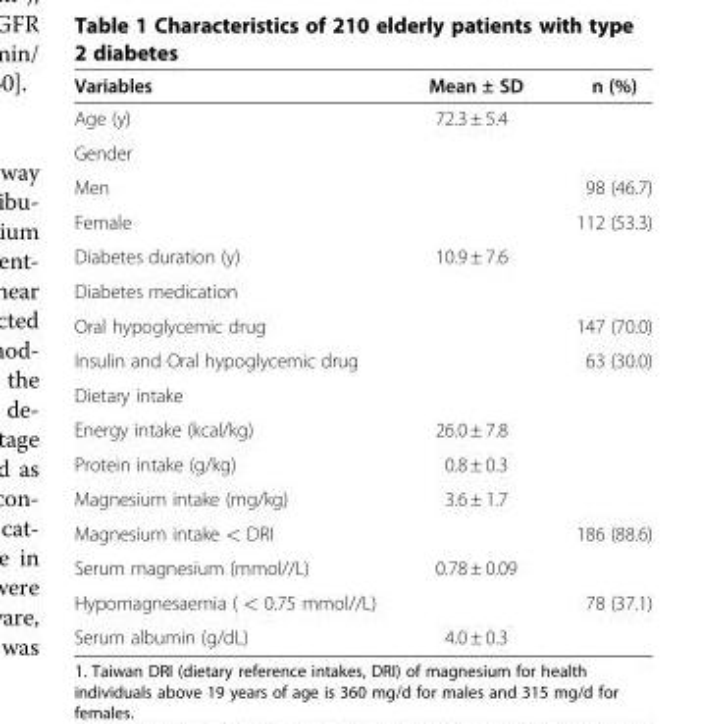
<table><thead><tr><td>Variables</td><td>Mean ± SD</td><td>n (%)</td></tr></thead><tbody><tr><td>Age (y)</td><td>72.3 ± 5.4</td><td></td></tr><tr><td colspan="3">Gender</td></tr><tr><td>Men</td><td></td><td>98 (46.7)</td></tr><tr><td>Female</td><td></td><td>112 (53.3)</td></tr><tr><td>Diabetes duration (y)</td><td>10.9 ± 7.6</td><td></td></tr><tr><td colspan="3">Diabetes medication</td></tr><tr><td>Oral hypoglycemic drug</td><td></td><td>147 (70.0)</td></tr><tr><td>Insulin and Oral hypoglycemic drug</td><td></td><td>63 (30.0)</td></tr><tr><td colspan="3">Dietary intake</td></tr><tr><td>Energy intake (kcal/kg)</td><td>26.0 ± 7.8</td><td></td></tr><tr><td>Protein intake (g/kg)</td><td>0.8 ± 0.3</td><td></td></tr><tr><td>Magnesium intake (mg/kg)</td><td>3.6 ± 1.7</td><td></td></tr><tr><td>Magnesium intake &lt; DRI</td><td></td><td>186 (88.6)</td></tr><tr><td>Serum magnesium (mmol//L)</td><td>0.78 ± 0.09</td><td></td></tr><tr><td>Hypomagnesaemia ( &lt; 0.75 mmol//L)</td><td></td><td>78 (37.1)</td></tr><tr><td>Serum albumin (g/dL)</td><td>4.0 ± 0.3</td><td></td></tr></tbody></table>